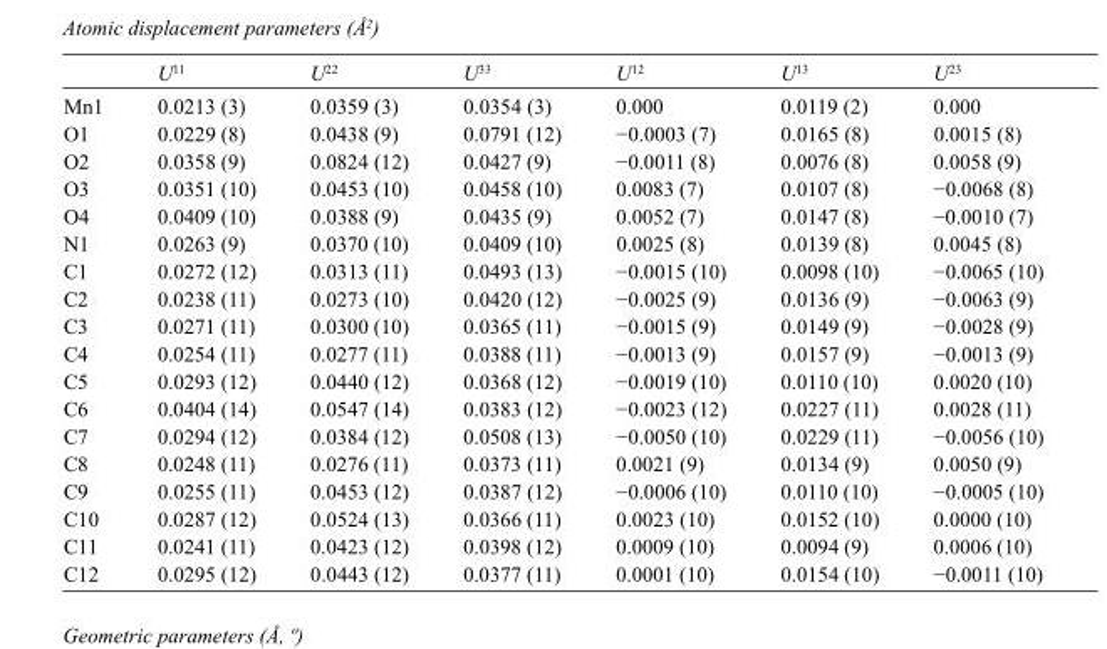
<table><thead><tr><td></td><td>U<sup>11</sup></td><td>U<sup>22</sup></td><td>U<sup>33</sup></td><td>U<sup>12</sup></td><td>U<sup>13</sup></td><td>U<sup>23</sup></td></tr></thead><tbody><tr><td>Mn1</td><td>0.0213 (3)</td><td>0.0359 (3)</td><td>0.0354 (3)</td><td>0.000</td><td>0.0119 (2)</td><td>0.000</td></tr><tr><td>O1</td><td>0.0229 (8)</td><td>0.0438 (9)</td><td>0.0791 (12)</td><td>−0.0003 (7)</td><td>0.0165 (8)</td><td>0.0015 (8)</td></tr><tr><td>O2</td><td>0.0358 (9)</td><td>0.0824 (12)</td><td>0.0427 (9)</td><td>−0.0011 (8)</td><td>0.0076 (8)</td><td>0.0058 (9)</td></tr><tr><td>O3</td><td>0.0351 (10)</td><td>0.0453 (10)</td><td>0.0458 (10)</td><td>0.0083 (7)</td><td>0.0107 (8)</td><td>−0.0068 (8)</td></tr><tr><td>O4</td><td>0.0409 (10)</td><td>0.0388 (9)</td><td>0.0435 (9)</td><td>0.0052 (7)</td><td>0.0147 (8)</td><td>−0.0010 (7)</td></tr><tr><td>N1</td><td>0.0263 (9)</td><td>0.0370 (10)</td><td>0.0409 (10)</td><td>0.0025 (8)</td><td>0.0139 (8)</td><td>0.0045 (8)</td></tr><tr><td>C1</td><td>0.0272 (12)</td><td>0.0313 (11)</td><td>0.0493 (13)</td><td>−0.0015 (10)</td><td>0.0098 (10)</td><td>−0.0065 (10)</td></tr><tr><td>C2</td><td>0.0238 (11)</td><td>0.0273 (10)</td><td>0.0420 (12)</td><td>−0.0025 (9)</td><td>0.0136 (9)</td><td>−0.0063 (9)</td></tr><tr><td>C3</td><td>0.0271 (11)</td><td>0.0300 (10)</td><td>0.0365 (11)</td><td>−0.0015 (9)</td><td>0.0149 (9)</td><td>−0.0028 (9)</td></tr><tr><td>C4</td><td>0.0254 (11)</td><td>0.0277 (11)</td><td>0.0388 (11)</td><td>−0.0013 (9)</td><td>0.0157 (9)</td><td>−0.0013 (9)</td></tr><tr><td>C5</td><td>0.0293 (12)</td><td>0.0440 (12)</td><td>0.0368 (12)</td><td>−0.0019 (10)</td><td>0.0110 (10)</td><td>0.0020 (10)</td></tr><tr><td>C6</td><td>0.0404 (14)</td><td>0.0547 (14)</td><td>0.0383 (12)</td><td>−0.0023 (12)</td><td>0.0227 (11)</td><td>0.0028 (11)</td></tr><tr><td>C7</td><td>0.0294 (12)</td><td>0.0384 (12)</td><td>0.0508 (13)</td><td>−0.0050 (10)</td><td>0.0229 (11)</td><td>−0.0056 (10)</td></tr><tr><td>C8</td><td>0.0248 (11)</td><td>0.0276 (11)</td><td>0.0373 (11)</td><td>0.0021 (9)</td><td>0.0134 (9)</td><td>0.0050 (9)</td></tr><tr><td>C9</td><td>0.0255 (11)</td><td>0.0453 (12)</td><td>0.0387 (12)</td><td>−0.0006 (10)</td><td>0.0110 (10)</td><td>−0.0005 (10)</td></tr><tr><td>C10</td><td>0.0287 (12)</td><td>0.0524 (13)</td><td>0.0366 (11)</td><td>0.0023 (10)</td><td>0.0152 (10)</td><td>0.0000 (10)</td></tr><tr><td>C11</td><td>0.0241 (11)</td><td>0.0423 (12)</td><td>0.0398 (12)</td><td>0.0009 (10)</td><td>0.0094 (9)</td><td>0.0006 (10)</td></tr><tr><td>C12</td><td>0.0295 (12)</td><td>0.0443 (12)</td><td>0.0377 (11)</td><td>0.0001 (10)</td><td>0.0154 (10)</td><td>−0.0011 (10)</td></tr></tbody></table>